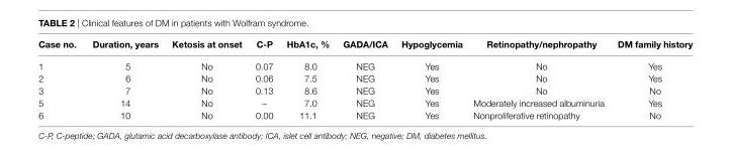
<table><thead><tr><td>case no.</td><td>Duration, years</td><td>Ketosis at onset</td><td>c-P</td><td>hba1c, %</td><td>gaDa/ica</td><td>hypoglycemia</td><td>retinopathy/nephropathy</td><td>DM family history</td></tr></thead><tbody><tr><td>1</td><td>5</td><td>No</td><td>0.07</td><td>8.0</td><td>NEG</td><td>Yes</td><td>No</td><td>Yes</td></tr><tr><td>2</td><td>6</td><td>No</td><td>0.06</td><td>7.5</td><td>NEG</td><td>Yes</td><td>No</td><td>Yes</td></tr><tr><td>3</td><td>7</td><td>No</td><td>0.13</td><td>8.6</td><td>NEG</td><td>Yes</td><td>No</td><td>No</td></tr><tr><td>5</td><td>14</td><td>No</td><td>–</td><td>7.0</td><td>NEG</td><td>Yes</td><td>Moderately increased albuminuria</td><td>Yes</td></tr><tr><td>6</td><td>10</td><td>No</td><td>0.00</td><td>11.1</td><td>NEG</td><td>Yes</td><td>Nonproliferative retinopathy</td><td>No</td></tr></tbody></table>